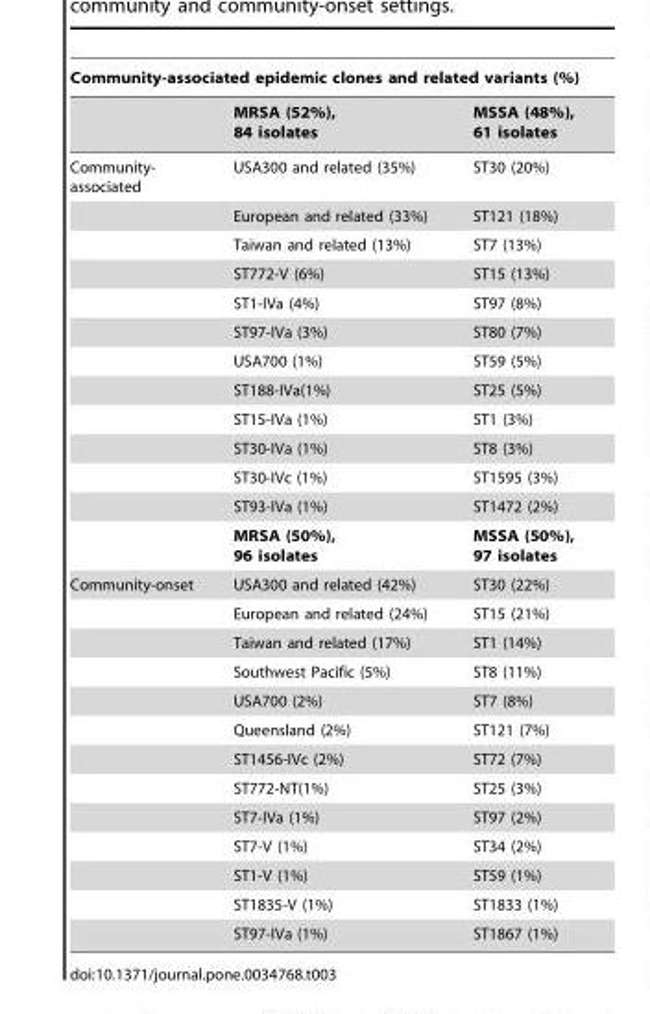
<table><thead><tr><td colspan="3">Community-associated epidemic clones and related variants (%)</td></tr><tr><td></td><td>MRSA (52%), 84 isolates</td><td>MSSA (48%), 61 isolates</td></tr></thead><tbody><tr><td rowspan="13">Community- associated</td><td>USA300 and related (35%)</td><td>ST30 (20%)</td></tr><tr><td>European and related (33%)</td><td>ST121 (18%)</td></tr><tr><td>Taiwan and related (13%)</td><td>ST7 (13%)</td></tr><tr><td>ST772-V (6%)</td><td>ST15 (13%)</td></tr><tr><td>ST1-IVa (4%)</td><td>ST97 (8%)</td></tr><tr><td>ST97-IVa (3%)</td><td>ST80 (7%)</td></tr><tr><td>USA700 (1%)</td><td>ST59 (5%)</td></tr><tr><td>ST188-IVa(1%)</td><td>ST25 (5%)</td></tr><tr><td>ST15-IVa (1%)</td><td>ST1 (3%)</td></tr><tr><td>ST30-IVa (1%)</td><td>ST8 (3%)</td></tr><tr><td>ST30-IVc (1%)</td><td>ST1595 (3%)</td></tr><tr><td>ST93-IVa (1%)</td><td>ST1472 (2%)</td></tr><tr><td>MRSA (50%), 96 isolates</td><td>MSSA (50%), 97 isolates</td></tr><tr><td rowspan="13">Community-onset</td><td>USA300 and related (42%)</td><td>ST30 (22%)</td></tr><tr><td>European and related (24%)</td><td>ST15 (21%)</td></tr><tr><td>Taiwan and related (17%)</td><td>ST1 (14%)</td></tr><tr><td>Southwest Pacific (5%)</td><td>ST8 (11%)</td></tr><tr><td>USA700 (2%)</td><td>ST7 (8%)</td></tr><tr><td>Queensland (2%)</td><td>ST121 (7%)</td></tr><tr><td>ST1456-IVc (2%)</td><td>ST72 (7%)</td></tr><tr><td>ST772-NT(1%)</td><td>ST25 (3%)</td></tr><tr><td>ST7-IVa (1%)</td><td>ST97 (2%)</td></tr><tr><td>ST7-V (1%)</td><td>ST34 (2%)</td></tr><tr><td>ST1-V (1%)</td><td>ST59 (1%)</td></tr><tr><td>ST1835-V (1%)</td><td>ST1833 (1%)</td></tr><tr><td>ST97-IVa (1%)</td><td>ST1867 (1%)</td></tr></tbody></table>